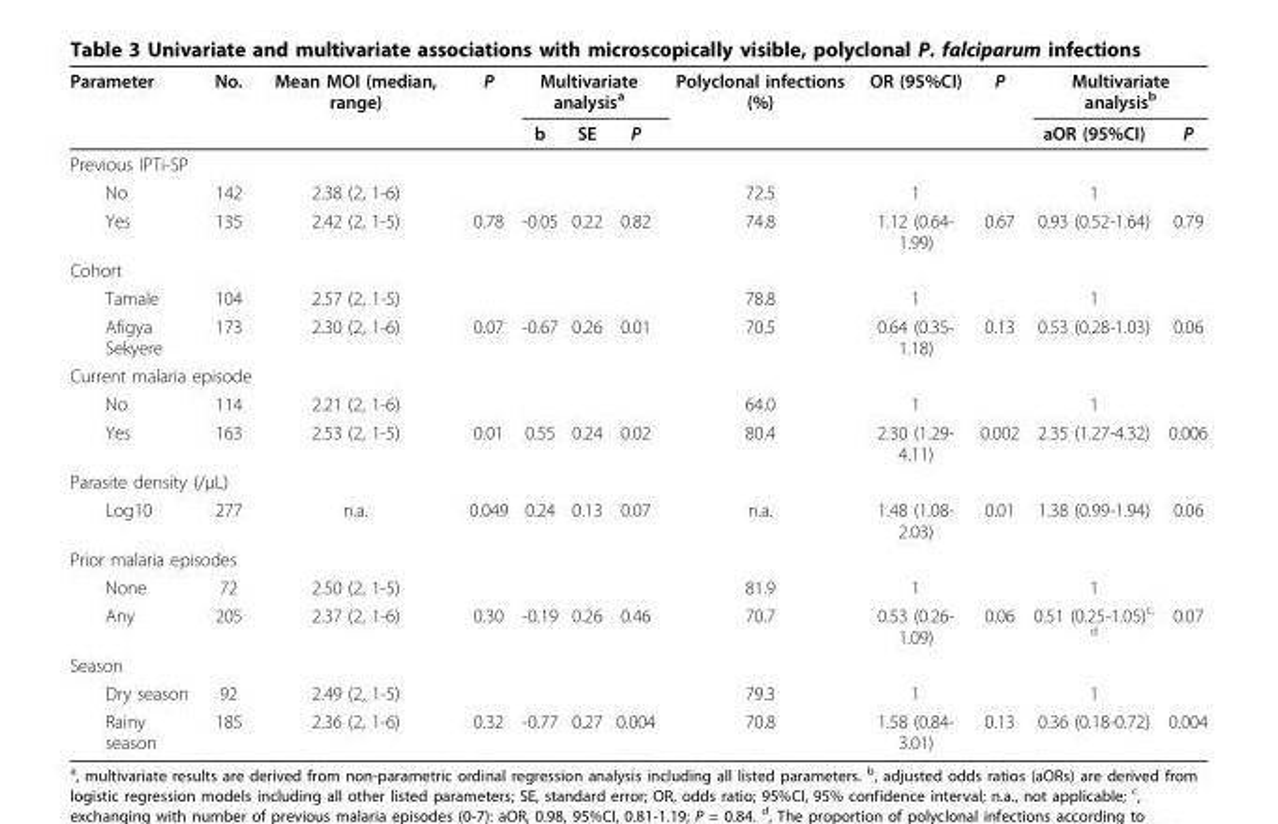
<table><thead><tr><td rowspan="2">Parameter</td><td rowspan="2">No.</td><td rowspan="2">Mean MOI (median, range)</td><td rowspan="2">P</td><td colspan="3">Multivariate analysis<sup>a</sup></td><td rowspan="2">Polyclonal infections (%)</td><td rowspan="2">OR (95%CI)</td><td rowspan="2">P</td><td colspan="2">Multivariate analysis<sup>b</sup></td></tr><tr><td>b</td><td>SE</td><td>P</td><td>aOR (95%CI)</td><td>P</td></tr></thead><tbody><tr><td colspan="12">Previous IPTi-SP</td></tr><tr><td>No</td><td>142</td><td>2.38 (2, 1-6)</td><td></td><td></td><td></td><td></td><td>72.5</td><td>1</td><td></td><td>1</td><td></td></tr><tr><td>Yes</td><td>135</td><td>2.42 (2, 1-5)</td><td>0.78</td><td>-0.05</td><td>0.22</td><td>0.82</td><td>74.8</td><td>1.12 (0.64- 1.99)</td><td>0.67</td><td>0.93 (0.52-1.64)</td><td>0.79</td></tr><tr><td colspan="12">Cohort</td></tr><tr><td>Tamale</td><td>104</td><td>2.57 (2, 1-5)</td><td></td><td></td><td></td><td></td><td>78.8</td><td>1</td><td></td><td>1</td><td></td></tr><tr><td>Afigya Sekyere</td><td>173</td><td>2.30 (2, 1-6)</td><td>0.07</td><td>-0.67</td><td>0.26</td><td>0.01</td><td>70.5</td><td>0.64 (0.35- 1.18)</td><td>0.13</td><td>0.53 (0.28-1.03)</td><td>0.06</td></tr><tr><td colspan="12">Current malaria episode</td></tr><tr><td>No</td><td>114</td><td>2.21 (2, 1-6)</td><td></td><td></td><td></td><td></td><td>64.0</td><td>1</td><td></td><td>1</td><td></td></tr><tr><td>Yes</td><td>163</td><td>2.53 (2, 1-5)</td><td>0.01</td><td>0.55</td><td>0.24</td><td>0.02</td><td>80.4</td><td>2.30 (1.29- 4.11)</td><td>0.002</td><td>2.35 (1.27-4.32)</td><td>0.006</td></tr><tr><td colspan="12">Parasite density (/μL)</td></tr><tr><td>Log10</td><td>277</td><td>n.a.</td><td>0.049</td><td>0.24</td><td>0.13</td><td>0.07</td><td>n.a.</td><td>1.48 (1.08- 2.03)</td><td>0.01</td><td>1.38 (0.99-1.94)</td><td>0.06</td></tr><tr><td colspan="12">Prior malaria episodes</td></tr><tr><td>None</td><td>72</td><td>2.50 (2, 1-5)</td><td></td><td></td><td></td><td></td><td>81.9</td><td>1</td><td></td><td>1</td><td></td></tr><tr><td>Any</td><td>205</td><td>2.37 (2, 1-6)</td><td>0.30</td><td>-0.19</td><td>0.26</td><td>0.46</td><td>70.7</td><td>0.53 (0.26- 1.09)</td><td>0.06</td><td>0.51 (0.25-1.05)<sup>c, d</sup></td><td>0.07</td></tr><tr><td colspan="12">Season</td></tr><tr><td>Dry season</td><td>92</td><td>2.49 (2, 1-5)</td><td></td><td></td><td></td><td></td><td>79.3</td><td>1</td><td></td><td>1</td><td></td></tr><tr><td>Rainy season</td><td>185</td><td>2.36 (2, 1-6)</td><td>0.32</td><td>-0.77</td><td>0.27</td><td>0.004</td><td>70.8</td><td>1.58 (0.84- 3.01)</td><td>0.13</td><td>0.36 (0.18-0.72)</td><td>0.004</td></tr></tbody></table>